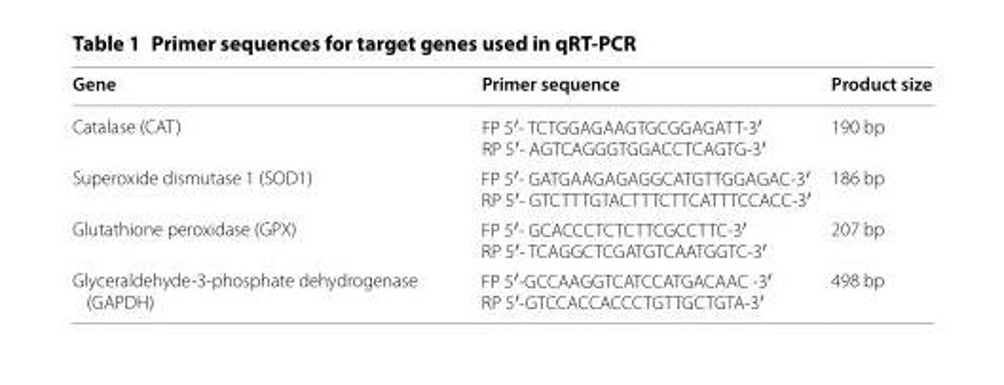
<table><thead><tr><td>Gene</td><td>Primer sequence</td><td>Product size</td></tr></thead><tbody><tr><td>Catalase (CAT)</td><td>FP 5′- TCTGGAGAAGTGCGGAGATT-3′ RP 5′- AGTCAGGGTGGACCTCAGTG-3′</td><td>190 bp</td></tr><tr><td>Superoxide dismutase 1 (SOD1)</td><td>FP 5′- GATGAAGAGAGGCATGTTGGAGAC-3′ RP 5′- GTCTTTGTACTTTCTTCATTTCCACC-3′</td><td>186 bp</td></tr><tr><td>Glutathione peroxidase (GPX)</td><td>FP 5′- GCACCCTCTCTTCGCCTTC-3′ RP 5′- TCAGGCTCGATGTCAATGGTC-3′</td><td>207 bp</td></tr><tr><td>Glyceraldehyde-3-phosphate dehydrogenase (GAPDH)</td><td>FP 5′-GCCAAGGTCATCCATGACAAC -3′ RP 5′-GTCCACCACCCTGTTGCTGTA-3′</td><td>498 bp</td></tr></tbody></table>